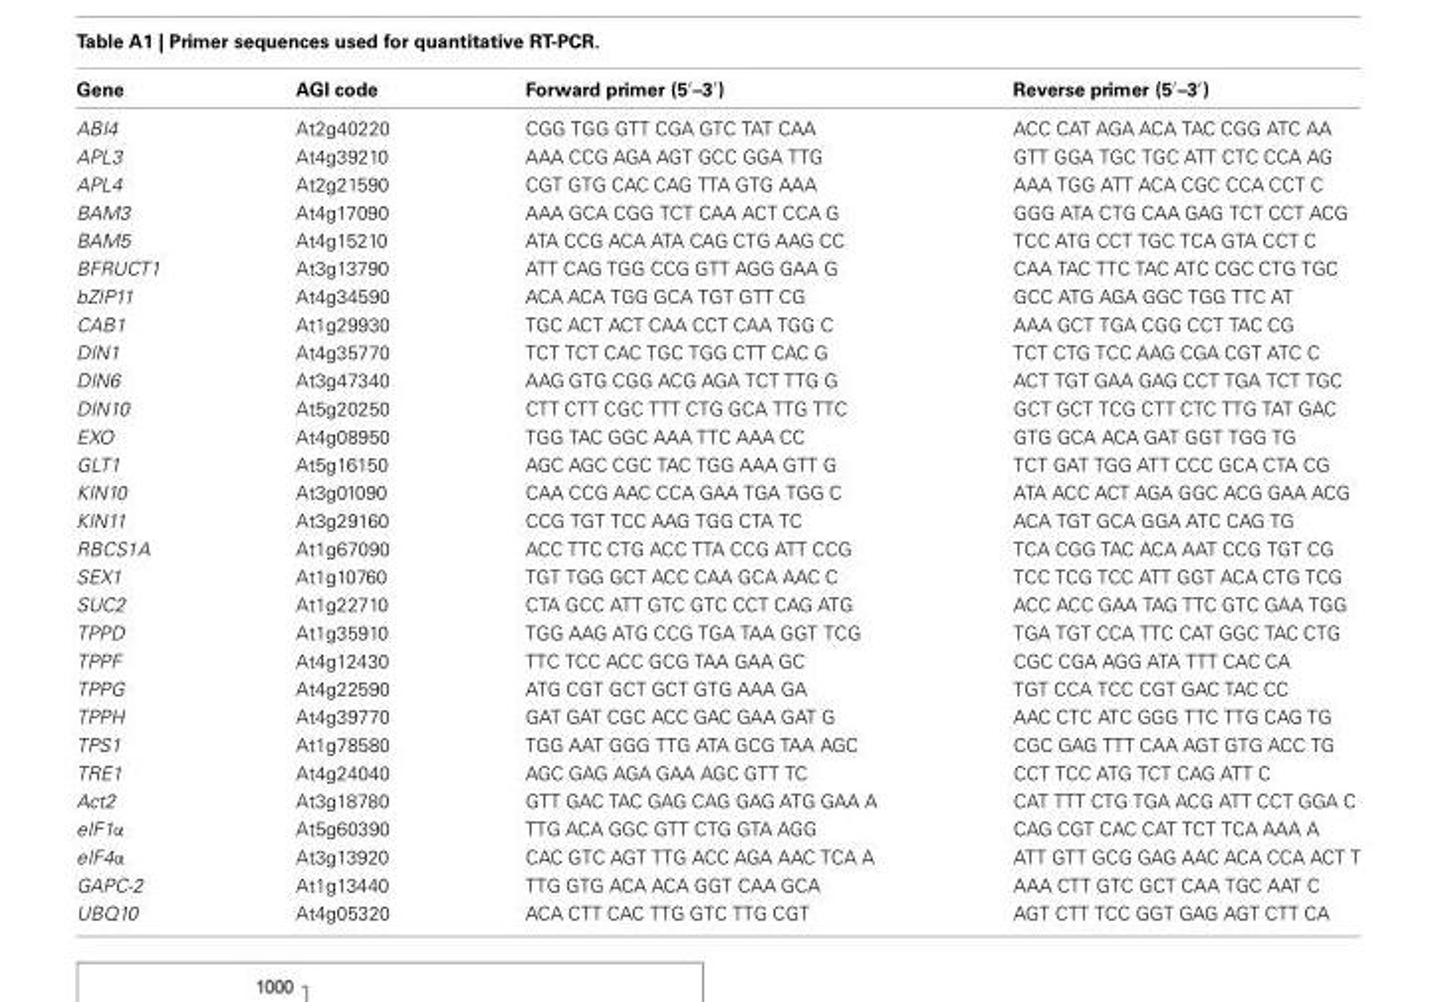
<table><thead><tr><td>Gene</td><td>AGI code</td><td>Forward primer (5′–3′)</td><td>Reverse primer (5′–3′)</td></tr></thead><tbody><tr><td>ABI4</td><td>At2g40220</td><td>CGG TGG GTT CGA GTC TAT CAA</td><td>ACC CAT AGA ACA TAC CGG ATC AA</td></tr><tr><td>APL3</td><td>At4g39210</td><td>AAA CCG AGA AGT GCC GGA TTG</td><td>GTT GGA TGC TGC ATT CTC CCA AG</td></tr><tr><td>APL4</td><td>At2g21590</td><td>CGT GTG CAC CAG TTA GTG AAA</td><td>AAA TGG ATT ACA CGC CCA CCT C</td></tr><tr><td>BAM3</td><td>At4g17090</td><td>AAA GCA CGG TCT CAA ACT CCA G</td><td>GGG ATA CTG CAA GAG TCT CCT ACG</td></tr><tr><td>BAM5</td><td>At4g15210</td><td>ATA CCG ACA ATA CAG CTG AAG CC</td><td>TCC ATG CCT TGC TCA GTA CCT C</td></tr><tr><td>BFRUCT1</td><td>At3g13790</td><td>ATT CAG TGG CCG GTT AGG GAA G</td><td>CAA TAC TTC TAC ATC CGC CTG TGC</td></tr><tr><td>bZIP11</td><td>At4g34590</td><td>ACA ACA TGG GCA TGT GTT CG</td><td>GCC ATG AGA GGC TGG TTC AT</td></tr><tr><td>CAB1</td><td>At1g29930</td><td>TGC ACT ACT CAA CCT CAA TGG C</td><td>AAA GCT TGA CGG CCT TAC CG</td></tr><tr><td>DIN1</td><td>At4g35770</td><td>TCT TCT CAC TGC TGG CTT CAC G</td><td>TCT CTG TCC AAG CGA CGT ATC C</td></tr><tr><td>DIN6</td><td>At3g47340</td><td>AAG GTG CGG ACG AGA TCT TTG G</td><td>ACT TGT GAA GAG CCT TGA TCT TGC</td></tr><tr><td>DIN10</td><td>At5g20250</td><td>CTT CTT CGC TTT CTG GCA TTG TTC</td><td>GCT GCT TCG CTT CTC TTG TAT GAC</td></tr><tr><td>EXO</td><td>At4g08950</td><td>TGG TAC GGC AAA TTC AAA CC</td><td>GTG GCA ACA GAT GGT TGG TG</td></tr><tr><td>GLT1</td><td>At5g16150</td><td>AGC AGC CGC TAC TGG AAA GTT G</td><td>TCT GAT TGG ATT CCC GCA CTA CG</td></tr><tr><td>KIN10</td><td>At3g01090</td><td>CAA CCG AAC CCA GAA TGA TGG C</td><td>ATA ACC ACT AGA GGC ACG GAA ACG</td></tr><tr><td>KIN11</td><td>At3g29160</td><td>CCG TGT TCC AAG TGG CTA TC</td><td>ACA TGT GCA GGA ATC CAG TG</td></tr><tr><td>RBCS1A</td><td>At1g67090</td><td>ACC TTC CTG ACC TTA CCG ATT CCG</td><td>TCA CGG TAC ACA AAT CCG TGT CG</td></tr><tr><td>SEX1</td><td>At1g10760</td><td>TGT TGG GCT ACC CAA GCA AAC C</td><td>TCC TCG TCC ATT GGT ACA CTG TCG</td></tr><tr><td>SUC2</td><td>At1g22710</td><td>CTA GCC ATT GTC GTC CCT CAG ATG</td><td>ACC ACC GAA TAG TTC GTC GAA TGG</td></tr><tr><td>TPPD</td><td>At1g35910</td><td>TGG AAG ATG CCG TGA TAA GGT TCG</td><td>TGA TGT CCA TTC CAT GGC TAC CTG</td></tr><tr><td>TPPF</td><td>At4g12430</td><td>TTC TCC ACC GCG TAA GAA GC</td><td>CGC CGA AGG ATA TTT CAC CA</td></tr><tr><td>TPPG</td><td>At4g22590</td><td>ATG CGT GCT GCT GTG AAA GA</td><td>TGT CCA TCC CGT GAC TAC CC</td></tr><tr><td>TPPH</td><td>At4g39770</td><td>GAT GAT CGC ACC GAC GAA GAT G</td><td>AAC CTC ATC GGG TTC TTG CAG TG</td></tr><tr><td>TPS1</td><td>At1g78580</td><td>TGG AAT GGG TTG ATA GCG TAA AGC</td><td>CGC GAG TTT CAA AGT GTG ACC TG</td></tr><tr><td>TRE1</td><td>At4g24040</td><td>AGC GAG AGA GAA AGC GTT TC</td><td>CCT TCC ATG TCT CAG ATT C</td></tr><tr><td>Act2</td><td>At3g18780</td><td>GTT GAC TAC GAG CAG GAG ATG GAA A</td><td>CAT TTT CTG TGA ACG ATT CCT GGA C</td></tr><tr><td>eIF1α</td><td>At5g60390</td><td>TTG ACA GGC GTT CTG GTA AGG</td><td>CAG CGT CAC CAT TCT TCA AAA A</td></tr><tr><td>eIF4α</td><td>At3g13920</td><td>CAC GTC AGT TTG ACC AGA AAC TCA A</td><td>ATT GTT GCG GAG AAC ACA CCA ACT T</td></tr><tr><td>GAPC-2</td><td>At1g13440</td><td>TTG GTG ACA ACA GGT CAA GCA</td><td>AAA CTT GTC GCT CAA TGC AAT C</td></tr><tr><td>UBQ10</td><td>At4g05320</td><td>ACA CTT CAC TTG GTC TTG CGT</td><td>AGT CTT TCC GGT GAG AGT CTT CA</td></tr></tbody></table>